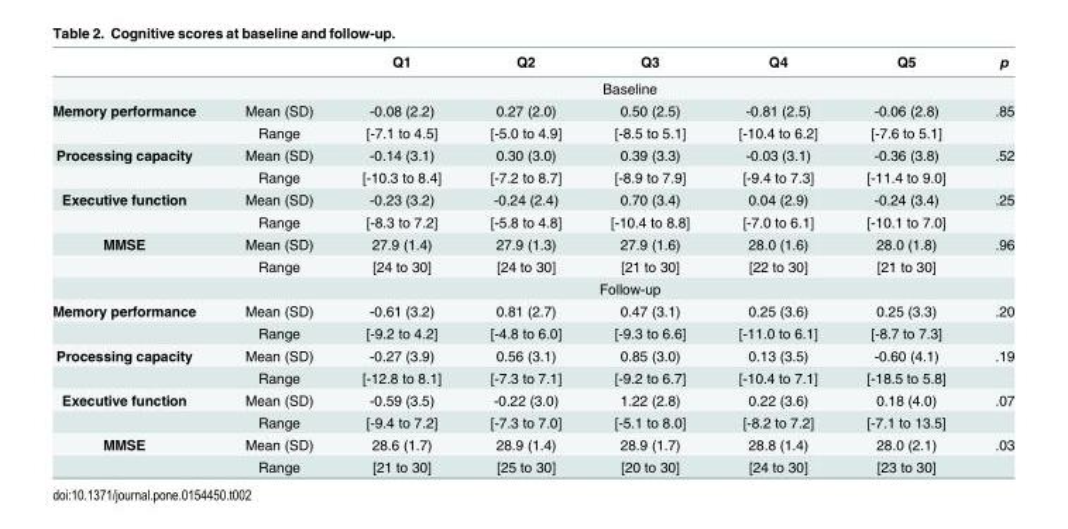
<table><thead><tr><td></td><td></td><td>Q1</td><td>Q2</td><td>Q3</td><td>Q4</td><td>Q5</td><td>p</td></tr></thead><tbody><tr><td></td><td colspan="7">Baseline</td></tr><tr><td rowspan="2">Memory performance</td><td>Mean (SD)</td><td>-0.08 (2.2)</td><td>0.27 (2.0)</td><td>0.50 (2.5)</td><td>-0.81 (2.5)</td><td>-0.06 (2.8)</td><td>.85</td></tr><tr><td>Range</td><td>[-7.1 to 4.5]</td><td>[-5.0 to 4.9]</td><td>[-8.5 to 5.1]</td><td>[-10.4 to 6.2]</td><td>[-7.6 to 5.1]</td><td></td></tr><tr><td rowspan="2">Processing capacity</td><td>Mean (SD)</td><td>-0.14 (3.1)</td><td>0.30 (3.0)</td><td>0.39 (3.3)</td><td>-0.03 (3.1)</td><td>-0.36 (3.8)</td><td>.52</td></tr><tr><td>Range</td><td>[-10.3 to 8.4]</td><td>[-7.2 to 8.7]</td><td>[-8.9 to 7.9]</td><td>[-9.4 to 7.3]</td><td>[-11.4 to 9.0]</td><td></td></tr><tr><td rowspan="2">Executive function</td><td>Mean (SD)</td><td>-0.23 (3.2)</td><td>-0.24 (2.4)</td><td>0.70 (3.4)</td><td>0.04 (2.9)</td><td>-0.24 (3.4)</td><td>.25</td></tr><tr><td>Range</td><td>[-8.3 to 7.2]</td><td>[-5.8 to 4.8]</td><td>[-10.4 to 8.8]</td><td>[-7.0 to 6.1]</td><td>[-10.1 to 7.0]</td><td></td></tr><tr><td rowspan="3">MMSE</td><td>Mean (SD)</td><td>27.9 (1.4)</td><td>27.9 (1.3)</td><td>27.9 (1.6)</td><td>28.0 (1.6)</td><td>28.0 (1.8)</td><td>.96</td></tr><tr><td>Range</td><td>[24 to 30]</td><td>[24 to 30]</td><td>[21 to 30]</td><td>[22 to 30]</td><td>[21 to 30]</td><td></td></tr><tr><td colspan="7">Follow-up</td></tr><tr><td rowspan="2">Memory performance</td><td>Mean (SD)</td><td>-0.61 (3.2)</td><td>0.81 (2.7)</td><td>0.47 (3.1)</td><td>0.25 (3.6)</td><td>0.25 (3.3)</td><td>.20</td></tr><tr><td>Range</td><td>[-9.2 to 4.2]</td><td>[-4.8 to 6.0]</td><td>[-9.3 to 6.6]</td><td>[-11.0 to 6.1]</td><td>[-8.7 to 7.3]</td><td></td></tr><tr><td rowspan="2">Processing capacity</td><td>Mean (SD)</td><td>-0.27 (3.9)</td><td>0.56 (3.1)</td><td>0.85 (3.0)</td><td>0.13 (3.5)</td><td>-0.60 (4.1)</td><td>.19</td></tr><tr><td>Range</td><td>[-12.8 to 8.1]</td><td>[-7.3 to 7.1]</td><td>[-9.2 to 6.7]</td><td>[-10.4 to 7.1]</td><td>[-18.5 to 5.8]</td><td></td></tr><tr><td rowspan="2">Executive function</td><td>Mean (SD)</td><td>-0.59 (3.5)</td><td>-0.22 (3.0)</td><td>1.22 (2.8)</td><td>0.22 (3.6)</td><td>0.18 (4.0)</td><td>.07</td></tr><tr><td>Range</td><td>[-9.4 to 7.2]</td><td>[-7.3 to 7.0]</td><td>[-5.1 to 8.0]</td><td>[-8.2 to 7.2]</td><td>[-7.1 to 13.5]</td><td></td></tr><tr><td rowspan="2">MMSE</td><td>Mean (SD)</td><td>28.6 (1.7)</td><td>28.9 (1.4)</td><td>28.9 (1.7)</td><td>28.8 (1.4)</td><td>28.0 (2.1)</td><td>.03</td></tr><tr><td>Range</td><td>[21 to 30]</td><td>[25 to 30]</td><td>[20 to 30]</td><td>[24 to 30]</td><td>[23 to 30]</td><td></td></tr></tbody></table>